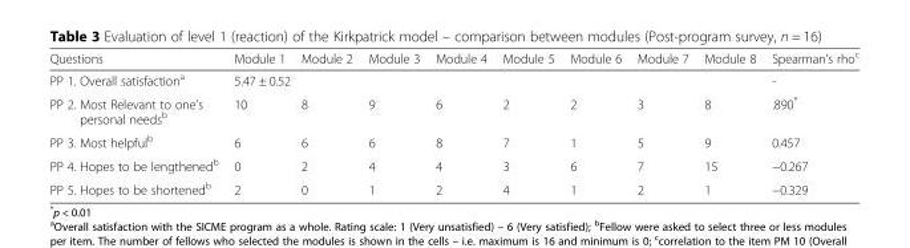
<table><thead><tr><td>Questions</td><td>Module 1</td><td>Module 2</td><td>Module 3</td><td>Module 4</td><td>Module 5</td><td>Module 6</td><td>Module 7</td><td>Module 8</td><td>Spearman’s rho<sup>c</sup></td></tr></thead><tbody><tr><td>PP 1. Overall satisfaction<sup>a</sup></td><td colspan="8">5.47 ± 0.52</td><td>-</td></tr><tr><td>PP 2. Most Relevant to one’s personal needs<sup>b</sup></td><td>10</td><td>8</td><td>9</td><td>6</td><td>2</td><td>2</td><td>3</td><td>8</td><td>.890*</td></tr><tr><td>PP 3. Most helpful<sup>b</sup></td><td>6</td><td>6</td><td>6</td><td>8</td><td>7</td><td>1</td><td>5</td><td>9</td><td>0.457</td></tr><tr><td>PP 4. Hopes to be lengthened<sup>b</sup></td><td>0</td><td>2</td><td>4</td><td>4</td><td>3</td><td>6</td><td>7</td><td>15</td><td>−0.267</td></tr><tr><td>PP 5. Hopes to be shortened<sup>b</sup></td><td>2</td><td>0</td><td>1</td><td>2</td><td>4</td><td>1</td><td>2</td><td>1</td><td>−0.329</td></tr></tbody></table>